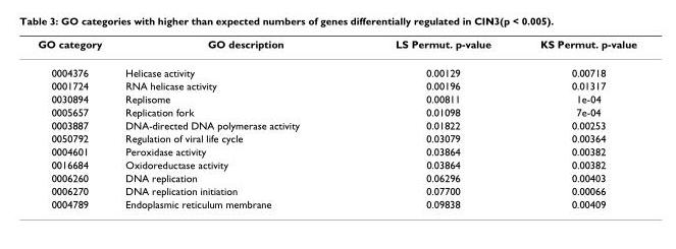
<table><thead><tr><td>GO category</td><td>GO description</td><td>LS Permut. p-value</td><td>KS Permut. p-value</td></tr></thead><tbody><tr><td>0004376</td><td>Helicase activity</td><td>0.00129</td><td>0.00718</td></tr><tr><td>0001724</td><td>RNA helicase activity</td><td>0.00196</td><td>0.01317</td></tr><tr><td>0030894</td><td>Replisome</td><td>0.00811</td><td>1e-04</td></tr><tr><td>0005657</td><td>Replication fork</td><td>0.01098</td><td>7e-04</td></tr><tr><td>0003887</td><td>DNA-directed DNA polymerase activity</td><td>0.01822</td><td>0.00253</td></tr><tr><td>0050792</td><td>Regulation of viral life cycle</td><td>0.03079</td><td>0.00364</td></tr><tr><td>0004601</td><td>Peroxidase activity</td><td>0.03864</td><td>0.00382</td></tr><tr><td>0016684</td><td>Oxidoreductase activity</td><td>0.03864</td><td>0.00382</td></tr><tr><td>0006260</td><td>DNA replication</td><td>0.06296</td><td>0.00403</td></tr><tr><td>0006270</td><td>DNA replication initiation</td><td>0.07700</td><td>0.00066</td></tr><tr><td>0004789</td><td>Endoplasmic reticulum membrane</td><td>0.09838</td><td>0.00409</td></tr></tbody></table>